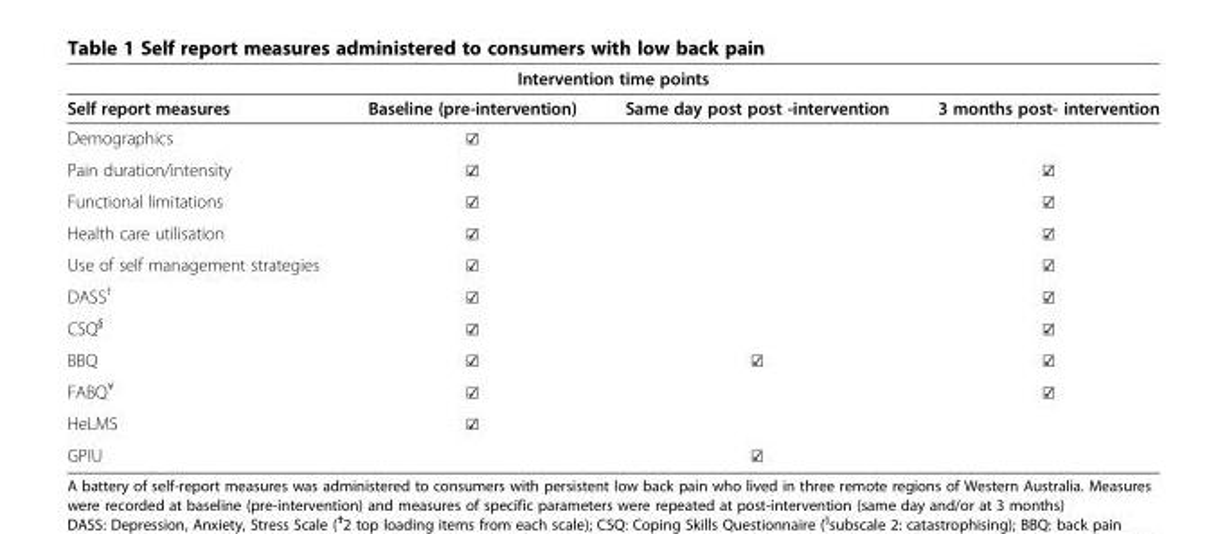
<table><thead><tr><td colspan="4">Intervention time points</td></tr><tr><td>Self report measures</td><td>Baseline (pre-intervention)</td><td>Same day post post -intervention</td><td>3 months post- intervention</td></tr></thead><tbody><tr><td>Demographics</td><td>☑</td><td></td><td></td></tr><tr><td>Pain duration/intensity</td><td>☑</td><td></td><td>☑</td></tr><tr><td>Functional limitations</td><td>☑</td><td></td><td>☑</td></tr><tr><td>Health care utilisation</td><td>☑</td><td></td><td>☑</td></tr><tr><td>Use of self management strategies</td><td>☑</td><td></td><td>☑</td></tr><tr><td>DASS<sup>†</sup></td><td>☑</td><td></td><td>☑</td></tr><tr><td>CSQ<sup>§</sup></td><td>☑</td><td></td><td>☑</td></tr><tr><td>BBQ</td><td>☑</td><td>☑</td><td>☑</td></tr><tr><td>FABQ<sup>¥</sup></td><td>☑</td><td></td><td>☑</td></tr><tr><td>HeLMS</td><td>☑</td><td></td><td></td></tr><tr><td>GPIU</td><td></td><td>☑</td><td></td></tr></tbody></table>